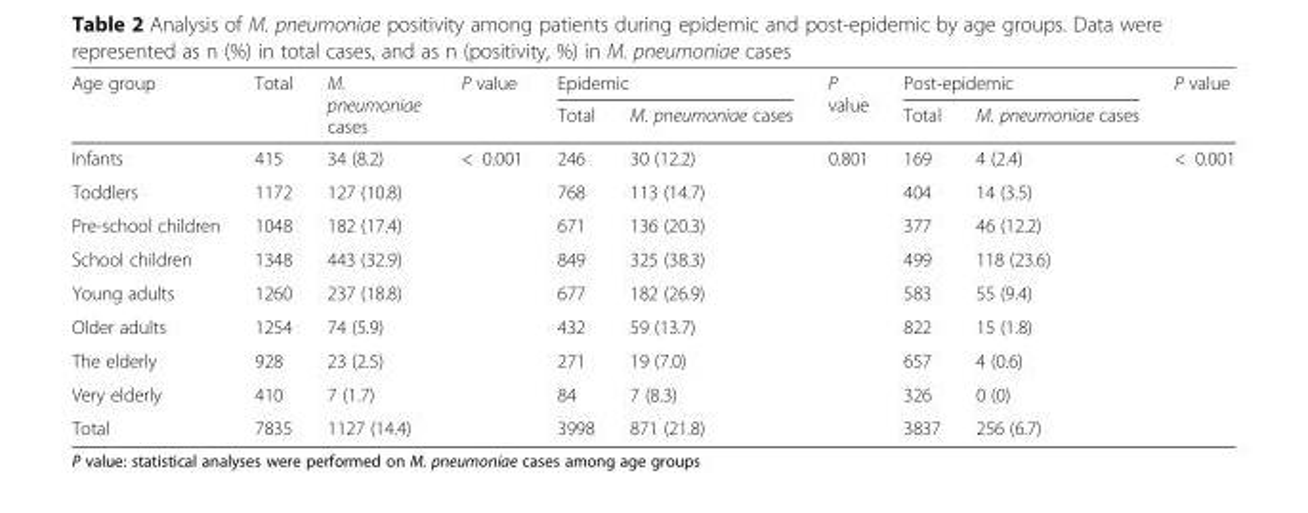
<table><thead><tr><td rowspan="2">Age group</td><td rowspan="2">Total</td><td rowspan="2">M. pneumoniae cases</td><td rowspan="2">P value</td><td colspan="2">Epidemic</td><td rowspan="2">P value</td><td colspan="2">Post-epidemic</td><td rowspan="2">P value</td></tr><tr><td>Total</td><td>M. pneumoniae cases</td><td>Total</td><td>M. pneumoniae cases</td></tr></thead><tbody><tr><td>Infants</td><td>415</td><td>34 (8.2)</td><td rowspan="8">&lt; 0.001</td><td>246</td><td>30 (12.2)</td><td rowspan="8">0.801</td><td>169</td><td>4 (2.4)</td><td rowspan="8">&lt; 0.001</td></tr><tr><td>Toddlers</td><td>1172</td><td>127 (10.8)</td><td>768</td><td>113 (14.7)</td><td>404</td><td>14 (3.5)</td></tr><tr><td>Pre-school children</td><td>1048</td><td>182 (17.4)</td><td>671</td><td>136 (20.3)</td><td>377</td><td>46 (12.2)</td></tr><tr><td>School children</td><td>1348</td><td>443 (32.9)</td><td>849</td><td>325 (38.3)</td><td>499</td><td>118 (23.6)</td></tr><tr><td>Young adults</td><td>1260</td><td>237 (18.8)</td><td>677</td><td>182 (26.9)</td><td>583</td><td>55 (9.4)</td></tr><tr><td>Older adults</td><td>1254</td><td>74 (5.9)</td><td>432</td><td>59 (13.7)</td><td>822</td><td>15 (1.8)</td></tr><tr><td>The elderly</td><td>928</td><td>23 (2.5)</td><td>271</td><td>19 (7.0)</td><td>657</td><td>4 (0.6)</td></tr><tr><td>Very elderly</td><td>410</td><td>7 (1.7)</td><td>84</td><td>7 (8.3)</td><td>326</td><td>0 (0)</td></tr><tr><td>Total</td><td>7835</td><td>1127 (14.4)</td><td></td><td>3998</td><td>871 (21.8)</td><td></td><td>3837</td><td>256 (6.7)</td><td></td></tr></tbody></table>